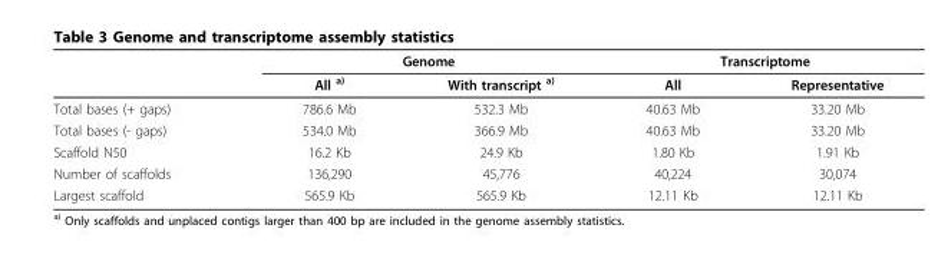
<table><thead><tr><td rowspan="2"></td><td colspan="2">Genome</td><td colspan="2">Transcriptome</td></tr><tr><td>All <sup>a)</sup></td><td>With transcript <sup>a)</sup></td><td>All</td><td>Representative</td></tr></thead><tbody><tr><td>Total bases (+ gaps)</td><td>786.6 Mb</td><td>532.3 Mb</td><td>40.63 Mb</td><td>33.20 Mb</td></tr><tr><td>Total bases (- gaps)</td><td>534.0 Mb</td><td>366.9 Mb</td><td>40.63 Mb</td><td>33.20 Mb</td></tr><tr><td>Scaffold N50</td><td>16.2 Kb</td><td>24.9 Kb</td><td>1.80 Kb</td><td>1.91 Kb</td></tr><tr><td>Number of scaffolds</td><td>136,290</td><td>45,776</td><td>40,224</td><td>30,074</td></tr><tr><td>Largest scaffold</td><td>565.9 Kb</td><td>565.9 Kb</td><td>12.11 Kb</td><td>12.11 Kb</td></tr></tbody></table>